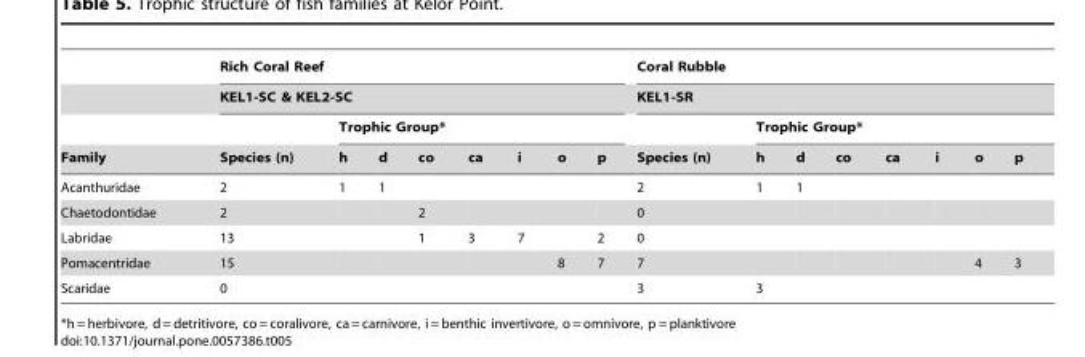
<table><thead><tr><td rowspan="4">Family</td><td rowspan="2" colspan="8">Rich Coral Reef KEL1-SC &amp; KEL2-SC</td><td rowspan="2" colspan="8">Coral Rubble KEL1-SR</td></tr><tr></tr><tr><td rowspan="2">Species (n)</td><td colspan="7">Trophic Group*</td><td rowspan="2">Species (n)</td><td colspan="7">Trophic Group*</td></tr><tr><td>h</td><td>d</td><td>co</td><td>ca</td><td>i</td><td>o</td><td>p</td><td>h</td><td>d</td><td>co</td><td>ca</td><td>i</td><td>o</td><td>p</td></tr></thead><tbody><tr><td>Acanthuridae</td><td>2</td><td>1</td><td>1</td><td></td><td></td><td></td><td></td><td></td><td>2</td><td>1</td><td>1</td><td></td><td></td><td></td><td></td><td></td></tr><tr><td>Chaetodontidae</td><td>2</td><td></td><td></td><td>2</td><td></td><td></td><td></td><td></td><td>0</td><td></td><td></td><td></td><td></td><td></td><td></td><td></td></tr><tr><td>Labridae</td><td>13</td><td></td><td></td><td>1</td><td>3</td><td>7</td><td></td><td>2</td><td>0</td><td></td><td></td><td></td><td></td><td></td><td></td><td></td></tr><tr><td>Pomacentridae</td><td>15</td><td></td><td></td><td></td><td></td><td></td><td>8</td><td>7</td><td>7</td><td></td><td></td><td></td><td></td><td></td><td>4</td><td>3</td></tr><tr><td>Scaridae</td><td>0</td><td></td><td></td><td></td><td></td><td></td><td></td><td></td><td>3</td><td>3</td><td></td><td></td><td></td><td></td><td></td><td></td></tr></tbody></table>